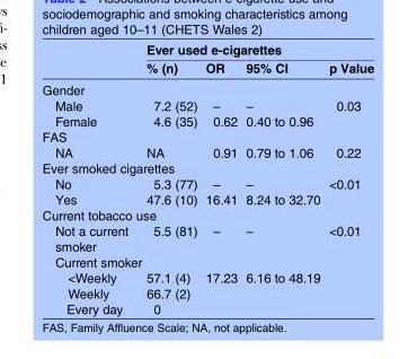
<table><thead><tr><td rowspan="2"></td><td colspan="4">Ever used e-cigarettes</td></tr><tr><td>% (n)</td><td>OR</td><td>95% CI</td><td>p Value</td></tr></thead><tbody><tr><td colspan="5">Gender</td></tr><tr><td>Male</td><td>7.2 (52)</td><td>–</td><td>–</td><td rowspan="2">0.03</td></tr><tr><td>Female</td><td>4.6 (35)</td><td>0.62</td><td>0.40 to 0.96</td></tr><tr><td colspan="5">FAS</td></tr><tr><td>NA</td><td>NA</td><td>0.91</td><td>0.79 to 1.06</td><td>0.22</td></tr><tr><td colspan="5">Ever smoked cigarettes</td></tr><tr><td>No</td><td>5.3 (77)</td><td>–</td><td>–</td><td rowspan="2">&lt;0.01</td></tr><tr><td>Yes</td><td>47.6 (10)</td><td>16.41</td><td>8.24 to 32.70</td></tr><tr><td colspan="5">Current tobacco use</td></tr><tr><td>Not a current smoker</td><td>5.5 (81)</td><td>–</td><td>–</td><td>&lt;0.01</td></tr><tr><td colspan="5">Current smoker</td></tr><tr><td>&lt;Weekly</td><td>57.1 (4)</td><td rowspan="3">17.23</td><td rowspan="3">6.16 to 48.19</td><td rowspan="3"></td></tr><tr><td>Weekly</td><td>66.7 (2)</td></tr><tr><td>Every day</td><td>0</td></tr></tbody></table>